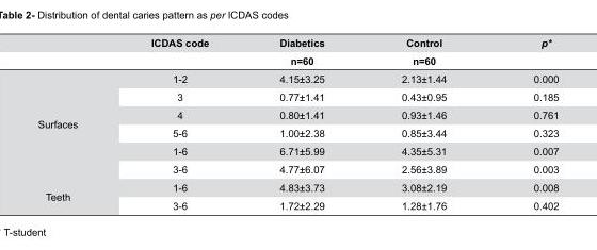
<table><thead><tr><td rowspan="2"></td><td rowspan="2">ICDAS code</td><td rowspan="2">Diabetics n=60</td><td rowspan="2">Control n=60</td><td rowspan="2">p*</td></tr><tr></tr></thead><tbody><tr><td rowspan="6">Surfaces</td><td>1-2</td><td>4.15±3.25</td><td>2.13±1.44</td><td>0.000</td></tr><tr><td>3</td><td>0.77±1.41</td><td>0.43±0.95</td><td>0.185</td></tr><tr><td>4</td><td>0.80±1.41</td><td>0.93±1.46</td><td>0.761</td></tr><tr><td>5-6</td><td>1.00±2.38</td><td>0.85±3.44</td><td>0.323</td></tr><tr><td>1-6</td><td>6.71±5.99</td><td>4.35±5.31</td><td>0.007</td></tr><tr><td>3-6</td><td>4.77±6.07</td><td>2.56±3.89</td><td>0.003</td></tr><tr><td rowspan="2">Teeth</td><td>1-6</td><td>4.83±3.73</td><td>3.08±2.19</td><td>0.008</td></tr><tr><td>3-6</td><td>1.72±2.29</td><td>1.28±1.76</td><td>0.402</td></tr></tbody></table>